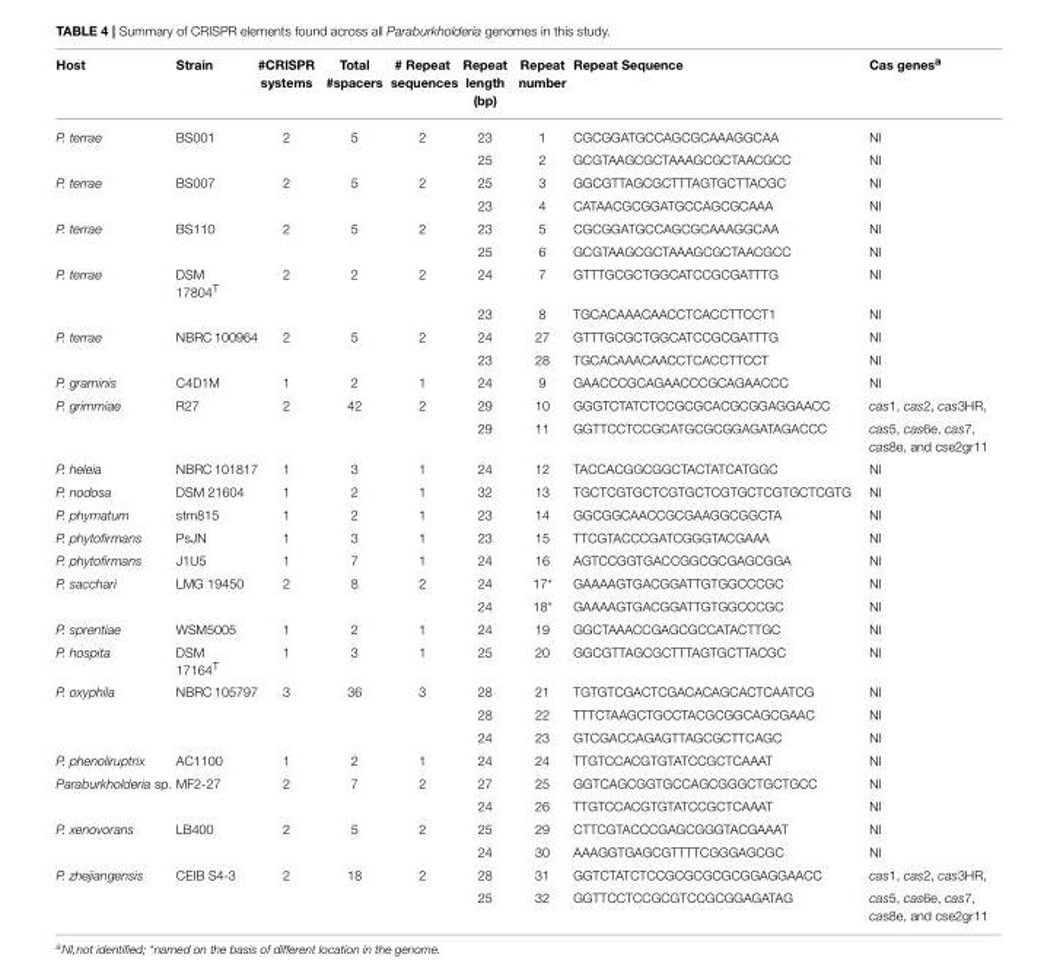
<table><thead><tr><td>Host</td><td>Strain</td><td>#CRISPR systems</td><td>Total #spacers</td><td># Repeat sequences</td><td>Repeat length (bp)</td><td>Repeat number</td><td>Repeat Sequence</td><td>Cas genes<sup>a</sup></td></tr></thead><tbody><tr><td rowspan="2">P. terrae</td><td>BS001</td><td>2</td><td>5</td><td>2</td><td>23</td><td>1</td><td>CGCGGATGCCAGCGCAAAGGCAA</td><td>NI</td></tr><tr><td></td><td></td><td></td><td></td><td>25</td><td>2</td><td>GCGTAAGCGCTAAAGCGCTAACGCC</td><td>NI</td></tr><tr><td rowspan="2">P. terrae</td><td>BS007</td><td>2</td><td>5</td><td>2</td><td>25</td><td>3</td><td>GGCGTTAGCGCTTTAGTGCTTACGC</td><td>NI</td></tr><tr><td></td><td></td><td></td><td></td><td>23</td><td>4</td><td>CATAACGCGGATGCCAGCGCAAA</td><td>NI</td></tr><tr><td rowspan="2">P. terrae</td><td>BS110</td><td>2</td><td>5</td><td>2</td><td>23</td><td>5</td><td>CGCGGATGCCAGCGCAAAGGCAA</td><td>NI</td></tr><tr><td></td><td></td><td></td><td></td><td>25</td><td>6</td><td>GCGTAAGCGCTAAAGCGCTAACGCC</td><td>NI</td></tr><tr><td rowspan="2">P. terrae</td><td>DSM 17804<sup>T</sup></td><td>2</td><td>2</td><td>2</td><td>24</td><td>7</td><td>GTTTGCGCTGGCATCCGCGATTTG</td><td>NI</td></tr><tr><td></td><td></td><td></td><td></td><td>23</td><td>8</td><td>TGCACAAACAACCTCACCTTCCT1</td><td>NI</td></tr><tr><td rowspan="2">P. terrae</td><td>NBRC 100964</td><td>2</td><td>5</td><td>2</td><td>24</td><td>27</td><td>GTTTGCGCTGGCATCCGCGATTTG</td><td>NI</td></tr><tr><td></td><td></td><td></td><td></td><td>23</td><td>28</td><td>TGCACAAACAACCTCACCTTCCT</td><td>NI</td></tr><tr><td>P. graminis</td><td>C4D1M</td><td>1</td><td>2</td><td>1</td><td>24</td><td>9</td><td>GAACCCGCAGAACCCGCAGAACCC</td><td>NI</td></tr><tr><td rowspan="2">P. grimmiae</td><td>R27</td><td>2</td><td>42</td><td>2</td><td>29</td><td>10</td><td>GGGTCTATCTCCGCGCACGCGGAGGAACC</td><td>cas1, cas2, cas3HR,</td></tr><tr><td></td><td></td><td></td><td></td><td>29</td><td>11</td><td>GGTTCCTCCGCATGCGCGGAGATAGACCC</td><td>cas5, cas6e, cas7, cas8e, and cse2gr11</td></tr><tr><td>P. heleia</td><td>NBRC 101817</td><td>1</td><td>3</td><td>1</td><td>24</td><td>12</td><td>TACCACGGCGGCTACTATCATGGC</td><td>NI</td></tr><tr><td>P. nodosa</td><td>DSM 21604</td><td>1</td><td>2</td><td>1</td><td>32</td><td>13</td><td>TGCTCGTGCTCGTGCTCGTGCTCGTGCTCGTG</td><td>NI</td></tr><tr><td>P. phymatum</td><td>stm815</td><td>1</td><td>2</td><td>1</td><td>23</td><td>14</td><td>GGCGGCAACCGCGAAGGCGGCTA</td><td>NI</td></tr><tr><td>P. phytofirmans</td><td>PsJN</td><td>1</td><td>3</td><td>1</td><td>23</td><td>15</td><td>TTCGTACCCGATCGGGTACGAAA</td><td>NI</td></tr><tr><td>P. phytofirmans</td><td>J1U5</td><td>1</td><td>7</td><td>1</td><td>24</td><td>16</td><td>AGTCCGGTGACCGGCGCGAGCGGA</td><td>NI</td></tr><tr><td rowspan="2">P. sacchari</td><td>LMG 19450</td><td>2</td><td>8</td><td>2</td><td>24</td><td>17*</td><td>GAAAAGTGACGGATTGTGGCCCGC</td><td>NI</td></tr><tr><td></td><td></td><td></td><td></td><td>24</td><td>18*</td><td>GAAAAGTGACGGATTGTGGCCCGC</td><td>NI</td></tr><tr><td>P. sprentiae</td><td>WSM5005</td><td>1</td><td>2</td><td>1</td><td>24</td><td>19</td><td>GGCTAAACCGAGCGCCATACTTGC</td><td>NI</td></tr><tr><td>P. hospita</td><td>DSM 17164<sup>T</sup></td><td>1</td><td>3</td><td>1</td><td>25</td><td>20</td><td>GGCGTTAGCGCTTTAGTGCTTACGC</td><td>NI</td></tr><tr><td rowspan="3">P. oxyphila</td><td>NBRC 105797</td><td>3</td><td>36</td><td>3</td><td>28</td><td>21</td><td>TGTGTCGACTCGACACAGCACTCAATCG</td><td>NI</td></tr><tr><td></td><td></td><td></td><td></td><td>28</td><td>22</td><td>TTTCTAAGCTGCCTACGCGGCAGCGAAC</td><td>NI</td></tr><tr><td></td><td></td><td></td><td></td><td>24</td><td>23</td><td>GTCGACCAGAGTTAGCGCTTCAGC</td><td>NI</td></tr><tr><td>P. phenoliruptrix</td><td>AC1100</td><td>1</td><td>2</td><td>1</td><td>24</td><td>24</td><td>TTGTCCACGTGTATCCGCTCAAAT</td><td>NI</td></tr><tr><td rowspan="2">Paraburkholderia sp.</td><td>MF2-27</td><td>2</td><td>7</td><td>2</td><td>27</td><td>25</td><td>GGTCAGCGGTGCCAGCGGGCTGCTGCC</td><td>NI</td></tr><tr><td></td><td></td><td></td><td></td><td>24</td><td>26</td><td>TTGTCCACGTGTATCCGCTCAAAT</td><td>NI</td></tr><tr><td rowspan="2">P. xenovorans</td><td>LB400</td><td>2</td><td>5</td><td>2</td><td>25</td><td>29</td><td>CTTCGTACCCGAGCGGGTACGAAAT</td><td>NI</td></tr><tr><td></td><td></td><td></td><td></td><td>24</td><td>30</td><td>AAAGGTGAGCGTTTTCGGGAGCGC</td><td>NI</td></tr><tr><td rowspan="2">P. zhejiangensis</td><td>CEIB S4-3</td><td>2</td><td>18</td><td>2</td><td>28</td><td>31</td><td>GGTCTATCTCCGCGCGCGCGGAGGAACC</td><td>cas1, cas2, cas3HR,</td></tr><tr><td></td><td></td><td></td><td></td><td>25</td><td>32</td><td>GGTTCCTCCGCGTCCGCGGAGATAG</td><td>cas5, cas6e, cas7, cas8e, and cse2gr11</td></tr></tbody></table>